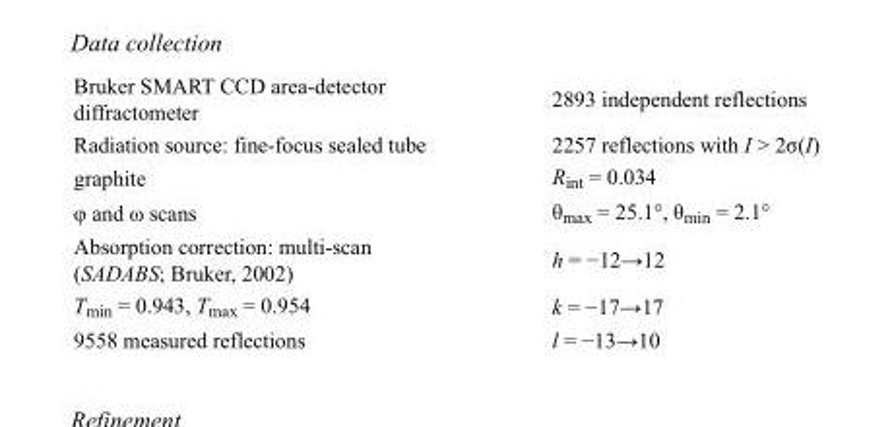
<table><tbody><tr><td>Bruker SMART CCD area-detector diffractometer</td><td>2893 independent reflections</td></tr><tr><td>Radiation source: fine-focus sealed tube</td><td>2257 reflections with I &gt; 2σ(I)</td></tr><tr><td>graphite</td><td>R<sub>int</sub> = 0.034</td></tr><tr><td>φ and ω scans</td><td>θ<sub>max</sub> = 25.1°, θ<sub>min</sub> = 2.1°</td></tr><tr><td>Absorption correction: multi-scan (SADABS; Bruker, 2002)</td><td>h = −12→12</td></tr><tr><td>T<sub>min</sub> = 0.943, T<sub>max</sub> = 0.954</td><td>k = −17→17</td></tr><tr><td>9558 measured reflections</td><td>l = −13→10</td></tr></tbody></table>